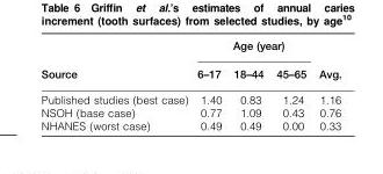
<table><thead><tr><td rowspan="2">Source</td><td colspan="3">Age (year)</td><td rowspan="2">Avg.</td></tr><tr><td>6–17</td><td>18–44</td><td>45–65</td></tr></thead><tbody><tr><td>Published studies (best case)</td><td>1.40</td><td>0.83</td><td>1.24</td><td>1.16</td></tr><tr><td>NSOH (base case)</td><td>0.77</td><td>1.09</td><td>0.43</td><td>0.76</td></tr><tr><td>NHANES (worst case)</td><td>0.49</td><td>0.49</td><td>0.00</td><td>0.33</td></tr></tbody></table>